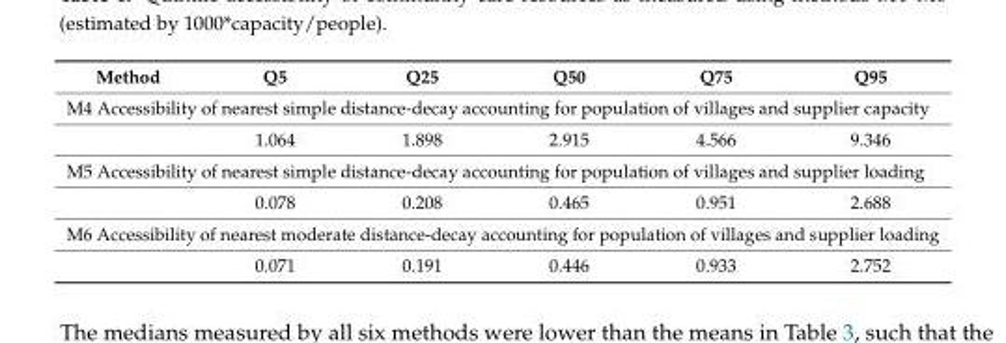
<table><thead><tr><td>Method</td><td>Q5</td><td>Q25</td><td>Q50</td><td>Q75</td><td>Q95</td></tr></thead><tbody><tr><td colspan="6">M4 Accessibility of nearest simple distance-decay accounting for population of villages and supplier capacity</td></tr><tr><td></td><td>1.064</td><td>1.898</td><td>2.915</td><td>4.566</td><td>9.346</td></tr><tr><td colspan="6">M5 Accessibility of nearest simple distance-decay accounting for population of villages and supplier loading</td></tr><tr><td></td><td>0.078</td><td>0.208</td><td>0.465</td><td>0.951</td><td>2.688</td></tr><tr><td colspan="6">M6 Accessibility of nearest moderate distance-decay accounting for population of villages and supplier loading</td></tr><tr><td></td><td>0.071</td><td>0.191</td><td>0.446</td><td>0.933</td><td>2.752</td></tr></tbody></table>